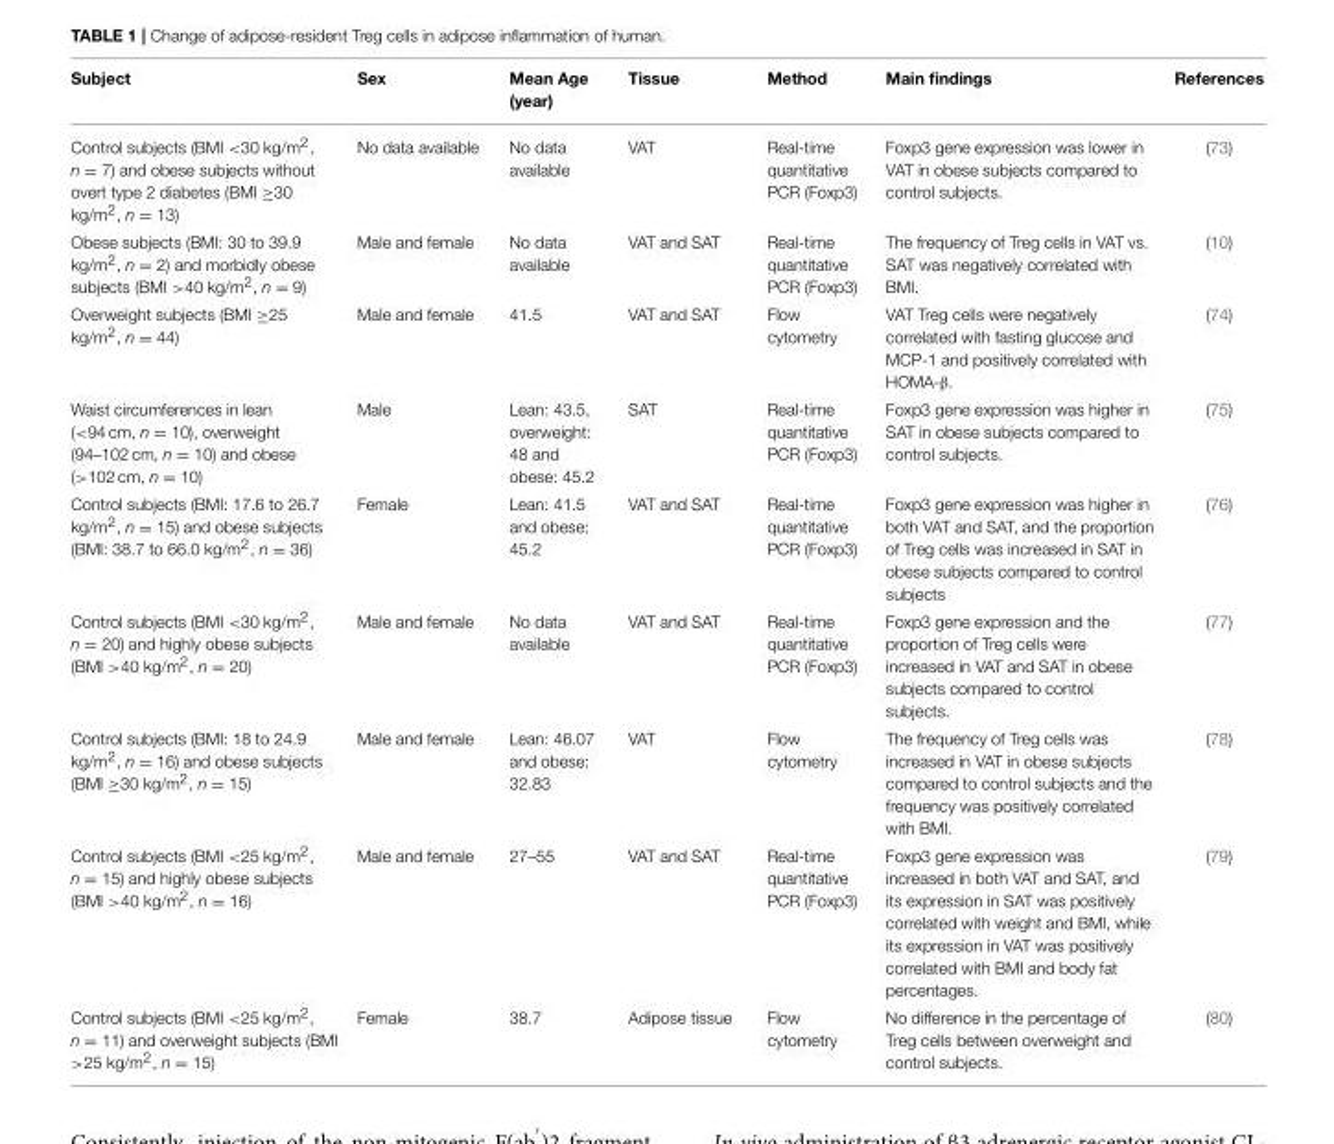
<table><thead><tr><td>Subject</td><td>Sex</td><td>Mean Age (year)</td><td>Tissue</td><td>Method</td><td>Main findings</td><td>References</td></tr></thead><tbody><tr><td>Control subjects (BMI &lt;30 kg/m<sup>2</sup>, n = 7) and obese subjects without overt type 2 diabetes (BMI ≥30 kg/m<sup>2</sup>, n = 13)</td><td>No data available</td><td>No data available</td><td>VAT</td><td>Real-time quantitative PCR (Foxp3)</td><td>Foxp3 gene expression was lower in VAT in obese subjects compared to control subjects.</td><td>(73)</td></tr><tr><td>Obese subjects (BMI: 30 to 39.9 kg/m<sup>2</sup>, n = 2) and morbidly obese subjects (BMI &gt;40 kg/m<sup>2</sup>, n = 9)</td><td>Male and female</td><td>No data available</td><td>VAT and SAT</td><td>Real-time quantitative PCR (Foxp3)</td><td>The frequency of Treg cells in VAT vs. SAT was negatively correlated with BMI.</td><td>(10)</td></tr><tr><td>Overweight subjects (BMI ≥25 kg/m<sup>2</sup>, n = 44)</td><td>Male and female</td><td>41.5</td><td>VAT and SAT</td><td>Flow cytometry</td><td>VAT Treg cells were negatively correlated with fasting glucose and MCP-1 and positively correlated with HOMA-β.</td><td>(74)</td></tr><tr><td>Waist circumferences in lean (&lt;94 cm, n = 10), overweight (94–102 cm, n = 10) and obese (&gt;102 cm, n = 10)</td><td>Male</td><td>Lean: 43.5, overweight: 48 and obese: 45.2</td><td>SAT</td><td>Real-time quantitative PCR (Foxp3)</td><td>Foxp3 gene expression was higher in SAT in obese subjects compared to control subjects.</td><td>(75)</td></tr><tr><td>Control subjects (BMI: 17.6 to 26.7 kg/m<sup>2</sup>, n = 15) and obese subjects (BMI: 38.7 to 66.0 kg/m<sup>2</sup>, n = 36)</td><td>Female</td><td>Lean: 41.5 and obese: 45.2</td><td>VAT and SAT</td><td>Real-time quantitative PCR (Foxp3)</td><td>Foxp3 gene expression was higher in both VAT and SAT, and the proportion of Treg cells was increased in SAT in obese subjects compared to control subjects</td><td>(76)</td></tr><tr><td>Control subjects (BMI &lt;30 kg/m<sup>2</sup>, n = 20) and highly obese subjects (BMI &gt;40 kg/m<sup>2</sup>, n = 20)</td><td>Male and female</td><td>No data available</td><td>VAT and SAT</td><td>Real-time quantitative PCR (Foxp3)</td><td>Foxp3 gene expression and the proportion of Treg cells were increased in VAT and SAT in obese subjects compared to control subjects.</td><td>(77)</td></tr><tr><td>Control subjects (BMI: 18 to 24.9 kg/m<sup>2</sup>, n = 16) and obese subjects (BMI ≥30 kg/m<sup>2</sup>, n = 15)</td><td>Male and female</td><td>Lean: 46.07 and obese: 32.83</td><td>VAT</td><td>Flow cytometry</td><td>The frequency of Treg cells was increased in VAT in obese subjects compared to control subjects and the frequency was positively correlated with BMI.</td><td>(78)</td></tr><tr><td>Control subjects (BMI &lt;25 kg/m<sup>2</sup>, n = 15) and highly obese subjects (BMI &gt;40 kg/m<sup>2</sup>, n = 16)</td><td>Male and female</td><td>27–55</td><td>VAT and SAT</td><td>Real-time quantitative PCR (Foxp3)</td><td>Foxp3 gene expression was increased in both VAT and SAT, and its expression in SAT was positively correlated with weight and BMI, while its expression in VAT was positively correlated with BMI and body fat percentages.</td><td>(79)</td></tr><tr><td>Control subjects (BMI &lt;25 kg/m<sup>2</sup>, n = 11) and overweight subjects (BMI &gt;25 kg/m<sup>2</sup>, n = 15)</td><td>Female</td><td>38.7</td><td>Adipose tissue</td><td>Flow cytometry</td><td>No difference in the percentage of Treg cells between overweight and control subjects.</td><td>(80)</td></tr></tbody></table>